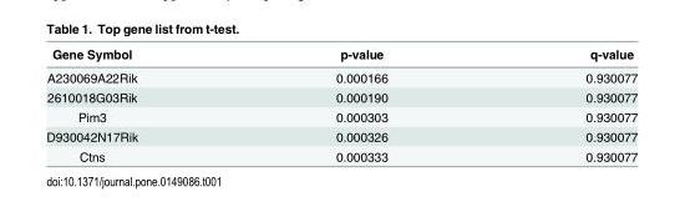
<table><thead><tr><td>Gene Symbol</td><td>p-value</td><td>q-value</td></tr></thead><tbody><tr><td>A230069A22Rik</td><td>0.000166</td><td>0.930077</td></tr><tr><td>2610018G03Rik</td><td>0.000190</td><td>0.930077</td></tr><tr><td>Pim3</td><td>0.000303</td><td>0.930077</td></tr><tr><td>D930042N17Rik</td><td>0.000326</td><td>0.930077</td></tr><tr><td>Ctns</td><td>0.000333</td><td>0.930077</td></tr></tbody></table>